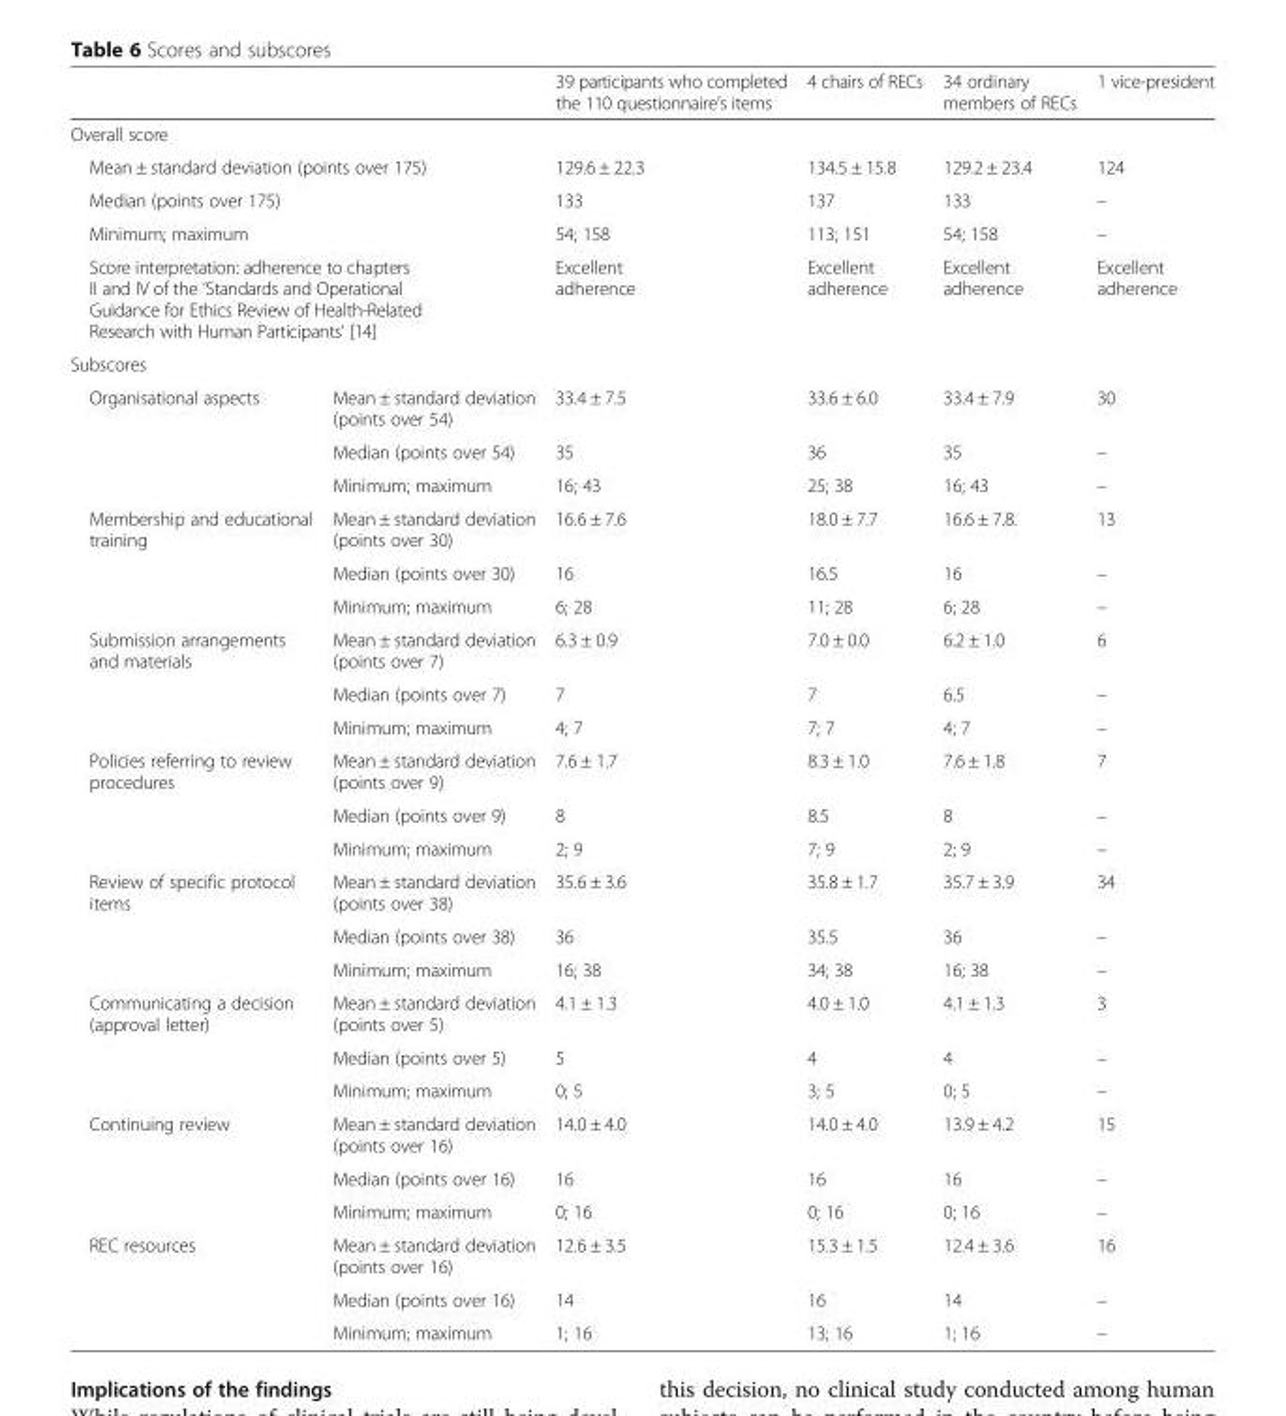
<table><thead><tr><td></td><td></td><td>39 participants who completed the 110 questionnaire’s items</td><td>4 chairs of RECs</td><td>34 ordinary members of RECs</td><td>1 vice-president</td></tr></thead><tbody><tr><td colspan="6">Overall score</td></tr><tr><td colspan="2">Mean ± standard deviation (points over 175)</td><td>129.6 ± 22.3</td><td>134.5 ± 15.8</td><td>129.2 ± 23.4</td><td>124</td></tr><tr><td colspan="2">Median (points over 175)</td><td>133</td><td>137</td><td>133</td><td>–</td></tr><tr><td colspan="2">Minimum; maximum</td><td>54; 158</td><td>113; 151</td><td>54; 158</td><td>–</td></tr><tr><td colspan="2">Score interpretation: adherence to chapters II and IV of the ‘Standards and Operational Guidance for Ethics Review of Health-Related Research with Human Participants’ [14]</td><td>Excellent adherence</td><td>Excellent adherence</td><td>Excellent adherence</td><td>Excellent adherence</td></tr><tr><td colspan="6">Subscores</td></tr><tr><td rowspan="3">Organisational aspects</td><td>Mean ± standard deviation (points over 54)</td><td>33.4 ± 7.5</td><td>33.6 ± 6.0</td><td>33.4 ± 7.9</td><td>30</td></tr><tr><td>Median (points over 54)</td><td>35</td><td>36</td><td>35</td><td>–</td></tr><tr><td>Minimum; maximum</td><td>16; 43</td><td>25; 38</td><td>16; 43</td><td>–</td></tr><tr><td rowspan="3">Membership and educational training</td><td>Mean ± standard deviation (points over 30)</td><td>16.6 ± 7.6</td><td>18.0 ± 7.7</td><td>16.6 ± 7.8.</td><td>13</td></tr><tr><td>Median (points over 30)</td><td>16</td><td>16.5</td><td>16</td><td>–</td></tr><tr><td>Minimum; maximum</td><td>6; 28</td><td>11; 28</td><td>6; 28</td><td>–</td></tr><tr><td rowspan="3">Submission arrangements and materials</td><td>Mean ± standard deviation (points over 7)</td><td>6.3 ± 0.9</td><td>7.0 ± 0.0</td><td>6.2 ± 1.0</td><td>6</td></tr><tr><td>Median (points over 7)</td><td>7</td><td>7</td><td>6.5</td><td>–</td></tr><tr><td>Minimum; maximum</td><td>4; 7</td><td>7; 7</td><td>4; 7</td><td>–</td></tr><tr><td rowspan="3">Policies referring to review procedures</td><td>Mean ± standard deviation (points over 9)</td><td>7.6 ± 1.7</td><td>8.3 ± 1.0</td><td>7.6 ± 1.8</td><td>7</td></tr><tr><td>Median (points over 9)</td><td>8</td><td>8.5</td><td>8</td><td>–</td></tr><tr><td>Minimum; maximum</td><td>2; 9</td><td>7; 9</td><td>2; 9</td><td>–</td></tr><tr><td rowspan="3">Review of specific protocol items</td><td>Mean ± standard deviation (points over 38)</td><td>35.6 ± 3.6</td><td>35.8 ± 1.7</td><td>35.7 ± 3.9</td><td>34</td></tr><tr><td>Median (points over 38)</td><td>36</td><td>35.5</td><td>36</td><td>–</td></tr><tr><td>Minimum; maximum</td><td>16; 38</td><td>34; 38</td><td>16; 38</td><td>–</td></tr><tr><td rowspan="3">Communicating a decision (approval letter)</td><td>Mean ± standard deviation (points over 5)</td><td>4.1 ± 1.3</td><td>4.0 ± 1.0</td><td>4.1 ± 1.3</td><td>3</td></tr><tr><td>Median (points over 5)</td><td>5</td><td>4</td><td>4</td><td>–</td></tr><tr><td>Minimum; maximum</td><td>0; 5</td><td>3; 5</td><td>0; 5</td><td>–</td></tr><tr><td rowspan="3">Continuing review</td><td>Mean ± standard deviation (points over 16)</td><td>14.0 ± 4.0</td><td>14.0 ± 4.0</td><td>13.9 ± 4.2</td><td>15</td></tr><tr><td>Median (points over 16)</td><td>16</td><td>16</td><td>16</td><td>–</td></tr><tr><td>Minimum; maximum</td><td>0; 16</td><td>0; 16</td><td>0; 16</td><td>–</td></tr><tr><td rowspan="3">REC resources</td><td>Mean ± standard deviation (points over 16)</td><td>12.6 ± 3.5</td><td>15.3 ± 1.5</td><td>12.4 ± 3.6</td><td>16</td></tr><tr><td>Median (points over 16)</td><td>14</td><td>16</td><td>14</td><td>–</td></tr><tr><td>Minimum; maximum</td><td>1; 16</td><td>13; 16</td><td>1; 16</td><td>–</td></tr></tbody></table>